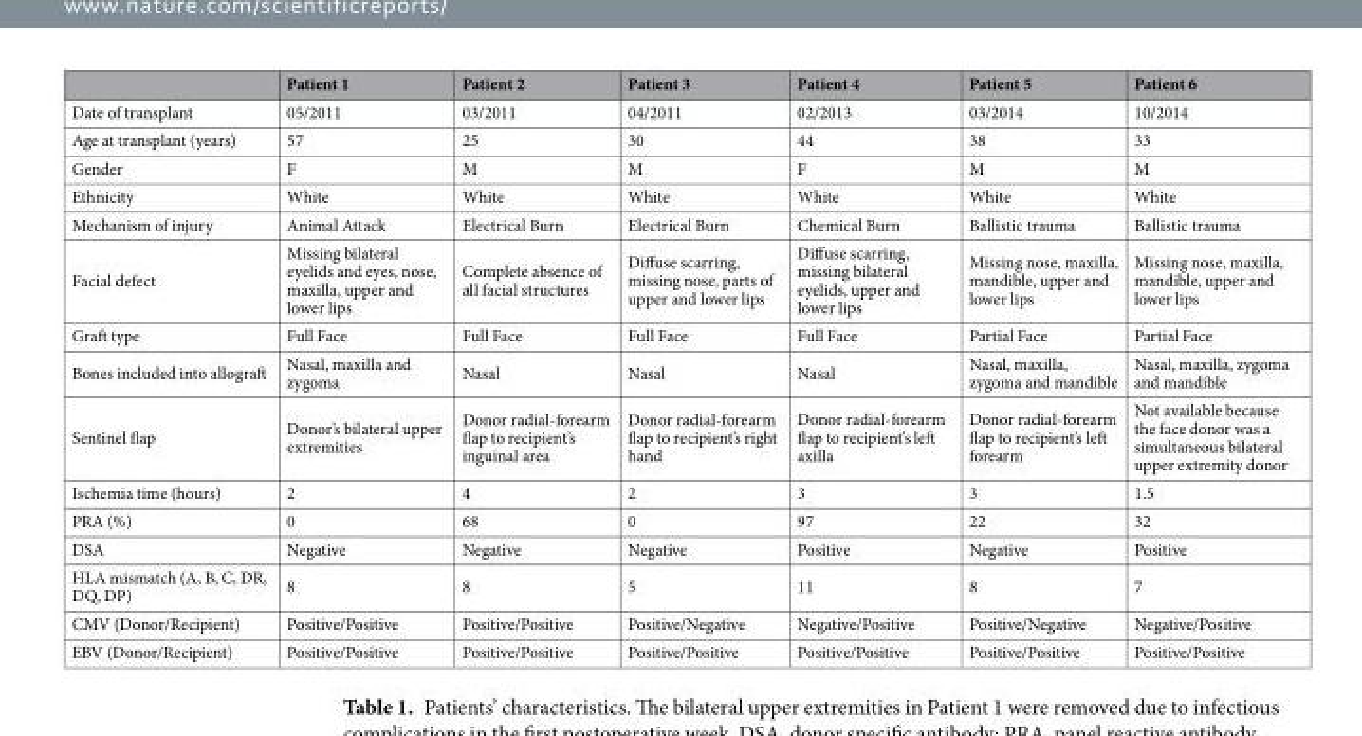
<table><thead><tr><td></td><td>Patient 1</td><td>Patient 2</td><td>Patient 3</td><td>Patient 4</td><td>Patient 5</td><td>Patient 6</td></tr></thead><tbody><tr><td>Date of transplant</td><td>05/2011</td><td>03/2011</td><td>04/2011</td><td>02/2013</td><td>03/2014</td><td>10/2014</td></tr><tr><td>Age at transplant (years)</td><td>57</td><td>25</td><td>30</td><td>44</td><td>38</td><td>33</td></tr><tr><td>Gender</td><td>F</td><td>M</td><td>M</td><td>F</td><td>M</td><td>M</td></tr><tr><td>Ethnicity</td><td>White</td><td>White</td><td>White</td><td>White</td><td>White</td><td>White</td></tr><tr><td>Mechanism of injury</td><td>Animal Attack</td><td>Electrical Burn</td><td>Electrical Burn</td><td>Chemical Burn</td><td>Ballistic trauma</td><td>Ballistic trauma</td></tr><tr><td>Facial defect</td><td>Missing bilateral eyelids and eyes, nose, maxilla, upper and lower lips</td><td>Complete absence of all facial structures</td><td>Diffuse scarring, missing nose, parts of upper and lower lips</td><td>Diffuse scarring, missing bilateral eyelids, upper and lower lips</td><td>Missing nose, maxilla, mandible, upper and lower lips</td><td>Missing nose, maxilla, mandible, upper and lower lips</td></tr><tr><td>Graft type</td><td>Full Face</td><td>Full Face</td><td>Full Face</td><td>Full Face</td><td>Partial Face</td><td>Partial Face</td></tr><tr><td>Bones included into allograft</td><td>Nasal, maxilla and zygoma</td><td>Nasal</td><td>Nasal</td><td>Nasal</td><td>Nasal, maxilla, zygoma and mandible</td><td>Nasal, maxilla, zygoma and mandible</td></tr><tr><td>Sentinel flap</td><td>Donor’s bilateral upper extremities</td><td>Donor radial-forearm flap to recipient’s inguinal area</td><td>Donor radial-forearm flap to recipient’s right hand</td><td>Donor radial-forearm flap to recipient’s left axilla</td><td>Donor radial-forearm flap to recipient’s left forearm</td><td>Not available because the face donor was a simultaneous bilateral upper extremity donor</td></tr><tr><td>Ischemia time (hours)</td><td>2</td><td>4</td><td>2</td><td>3</td><td>3</td><td>1.5</td></tr><tr><td>PRA (%)</td><td>0</td><td>68</td><td>0</td><td>97</td><td>22</td><td>32</td></tr><tr><td>DSA</td><td>Negative</td><td>Negative</td><td>Negative</td><td>Positive</td><td>Negative</td><td>Positive</td></tr><tr><td>HLA mismatch (A, B, C, DR, DQ, DP)</td><td>8</td><td>8</td><td>5</td><td>11</td><td>8</td><td>7</td></tr><tr><td>CMV (Donor/Recipient)</td><td>Positive/Positive</td><td>Positive/Positive</td><td>Positive/Negative</td><td>Negative/Positive</td><td>Positive/Negative</td><td>Negative/Positive</td></tr><tr><td>EBV (Donor/Recipient)</td><td>Positive/Positive</td><td>Positive/Positive</td><td>Positive/Positive</td><td>Positive/Positive</td><td>Positive/Positive</td><td>Positive/Positive</td></tr></tbody></table>